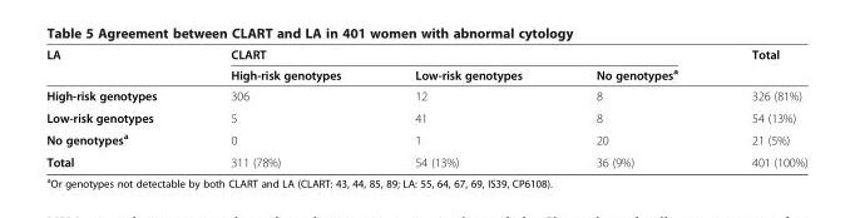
<table><thead><tr><td rowspan="2">LA</td><td colspan="3">CLART</td><td rowspan="2">Total</td></tr><tr><td>High-risk genotypes</td><td>Low-risk genotypes</td><td>No genotypes<sup>a</sup></td></tr></thead><tbody><tr><td>High-risk genotypes</td><td>306</td><td>12</td><td>8</td><td>326 (81%)</td></tr><tr><td>Low-risk genotypes</td><td>5</td><td>41</td><td>8</td><td>54 (13%)</td></tr><tr><td>No genotypes<sup>a</sup></td><td>0</td><td>1</td><td>20</td><td>21 (5%)</td></tr><tr><td>Total</td><td>311 (78%)</td><td>54 (13%)</td><td>36 (9%)</td><td>401 (100%)</td></tr></tbody></table>